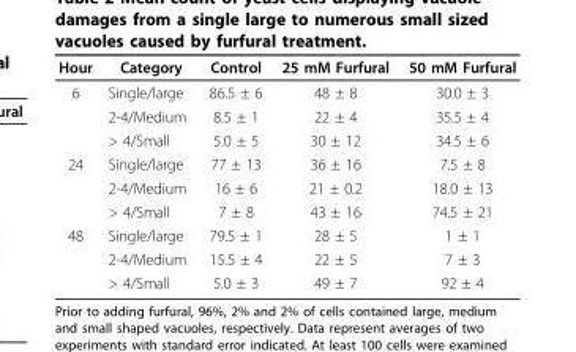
<table><thead><tr><td>Hour</td><td>Category</td><td>Control</td><td>25 mM Furfural</td><td>50 mM Furfural</td></tr></thead><tbody><tr><td rowspan="3">6</td><td>Single/large</td><td>86.5 ± 6</td><td>48 ± 8</td><td>30.0 ± 3</td></tr><tr><td>2-4/Medium</td><td>8.5 ± 1</td><td>22 ± 4</td><td>35.5 ± 4</td></tr><tr><td>&gt; 4/Small</td><td>5.0 ± 5</td><td>30 ± 12</td><td>34.5 ± 6</td></tr><tr><td rowspan="3">24</td><td>Single/large</td><td>77 ± 13</td><td>36 ± 16</td><td>7.5 ± 8</td></tr><tr><td>2-4/Medium</td><td>16 ± 6</td><td>21 ± 0.2</td><td>18.0 ± 13</td></tr><tr><td>&gt; 4/Small</td><td>7 ± 8</td><td>43 ± 16</td><td>74.5 ± 21</td></tr><tr><td rowspan="3">48</td><td>Single/large</td><td>79.5 ± 1</td><td>28 ± 5</td><td>1 ± 1</td></tr><tr><td>2-4/Medium</td><td>15.5 ± 4</td><td>22 ± 5</td><td>7 ± 3</td></tr><tr><td>&gt; 4/Small</td><td>5.0 ± 3</td><td>49 ± 7</td><td>92 ± 4</td></tr></tbody></table>